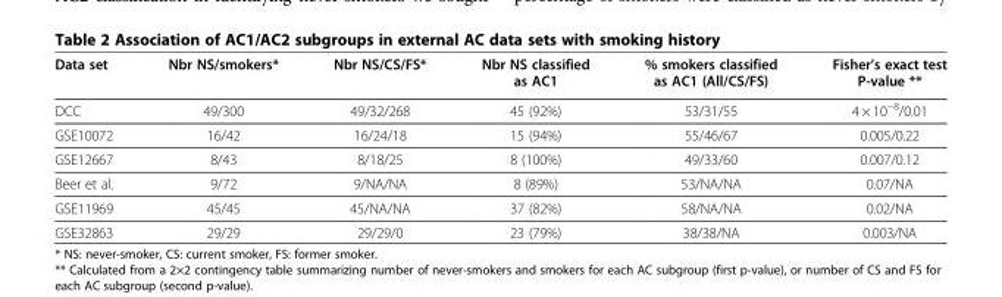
<table><thead><tr><td>Data set</td><td>Nbr NS/smokers*</td><td>Nbr NS/CS/FS*</td><td>Nbr NS classified as AC1</td><td>% smokers classified as AC1 (All/CS/FS)</td><td>Fisher’s exact test P-value **</td></tr></thead><tbody><tr><td>DCC</td><td>49/300</td><td>49/32/268</td><td>45 (92%)</td><td>53/31/55</td><td>4 × 10<sup>−8</sup>/0.01</td></tr><tr><td>GSE10072</td><td>16/42</td><td>16/24/18</td><td>15 (94%)</td><td>55/46/67</td><td>0.005/0.22</td></tr><tr><td>GSE12667</td><td>8/43</td><td>8/18/25</td><td>8 (100%)</td><td>49/33/60</td><td>0.007/0.12</td></tr><tr><td>Beer et al.</td><td>9/72</td><td>9/NA/NA</td><td>8 (89%)</td><td>53/NA/NA</td><td>0.07/NA</td></tr><tr><td>GSE11969</td><td>45/45</td><td>45/NA/NA</td><td>37 (82%)</td><td>58/NA/NA</td><td>0.02/NA</td></tr><tr><td>GSE32863</td><td>29/29</td><td>29/29/0</td><td>23 (79%)</td><td>38/38/NA</td><td>0.003/NA</td></tr></tbody></table>